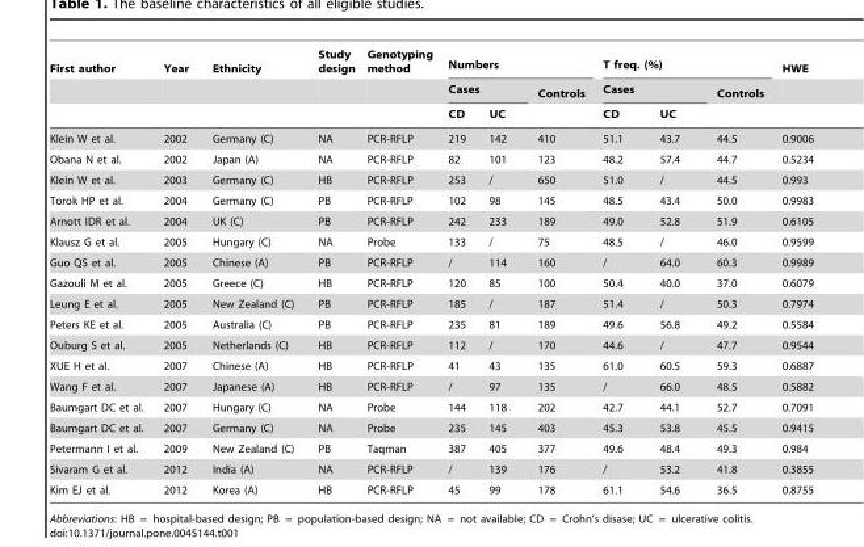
<table><thead><tr><td rowspan="3">First author</td><td rowspan="3">Year</td><td rowspan="3">Ethnicity</td><td rowspan="3">Study design</td><td rowspan="3">Genotyping method</td><td colspan="3">Numbers</td><td colspan="3">T freq. (%)</td><td rowspan="3">HWE</td></tr><tr><td colspan="2">Cases</td><td rowspan="2">Controls</td><td colspan="2">Cases</td><td rowspan="2">Controls</td></tr><tr><td>CD</td><td>UC</td><td>CD</td><td>UC</td></tr></thead><tbody><tr><td>Klein W et al.</td><td>2002</td><td>Germany (C)</td><td>NA</td><td>PCR-RFLP</td><td>219</td><td>142</td><td>410</td><td>51.1</td><td>43.7</td><td>44.5</td><td>0.9006</td></tr><tr><td>Obana N et al.</td><td>2002</td><td>Japan (A)</td><td>NA</td><td>PCR-RFLP</td><td>82</td><td>101</td><td>123</td><td>48.2</td><td>57.4</td><td>44.7</td><td>0.5234</td></tr><tr><td>Klein W et al.</td><td>2003</td><td>Germany (C)</td><td>HB</td><td>PCR-RFLP</td><td>253</td><td>/</td><td>650</td><td>51.0</td><td>/</td><td>44.5</td><td>0.993</td></tr><tr><td>Torok HP et al.</td><td>2004</td><td>Germany (C)</td><td>PB</td><td>PCR-RFLP</td><td>102</td><td>98</td><td>145</td><td>48.5</td><td>43.4</td><td>50.0</td><td>0.9983</td></tr><tr><td>Arnott IDR et al.</td><td>2004</td><td>UK (C)</td><td>PB</td><td>PCR-RFLP</td><td>242</td><td>233</td><td>189</td><td>49.0</td><td>52.8</td><td>51.9</td><td>0.6105</td></tr><tr><td>Klausz G et al.</td><td>2005</td><td>Hungary (C)</td><td>NA</td><td>Probe</td><td>133</td><td>/</td><td>75</td><td>48.5</td><td>/</td><td>46.0</td><td>0.9599</td></tr><tr><td>Guo QS et al.</td><td>2005</td><td>Chinese (A)</td><td>PB</td><td>PCR-RFLP</td><td>/</td><td>114</td><td>160</td><td>/</td><td>64.0</td><td>60.3</td><td>0.9989</td></tr><tr><td>Gazouli M et al.</td><td>2005</td><td>Greece (C)</td><td>HB</td><td>PCR-RFLP</td><td>120</td><td>85</td><td>100</td><td>50.4</td><td>40.0</td><td>37.0</td><td>0.6079</td></tr><tr><td>Leung E et al.</td><td>2005</td><td>New Zealand (C)</td><td>PB</td><td>PCR-RFLP</td><td>185</td><td>/</td><td>187</td><td>51.4</td><td>/</td><td>50.3</td><td>0.7974</td></tr><tr><td>Peters KE et al.</td><td>2005</td><td>Australia (C)</td><td>PB</td><td>PCR-RFLP</td><td>235</td><td>81</td><td>189</td><td>49.6</td><td>56.8</td><td>49.2</td><td>0.5584</td></tr><tr><td>Ouburg S et al.</td><td>2005</td><td>Netherlands (C)</td><td>HB</td><td>PCR-RFLP</td><td>112</td><td>/</td><td>170</td><td>44.6</td><td>/</td><td>47.7</td><td>0.9544</td></tr><tr><td>XUE H et al.</td><td>2007</td><td>Chinese (A)</td><td>HB</td><td>PCR-RFLP</td><td>41</td><td>43</td><td>135</td><td>61.0</td><td>60.5</td><td>59.3</td><td>0.6887</td></tr><tr><td>Wang F et al.</td><td>2007</td><td>Japanese (A)</td><td>HB</td><td>PCR-RFLP</td><td>/</td><td>97</td><td>135</td><td>/</td><td>66.0</td><td>48.5</td><td>0.5882</td></tr><tr><td>Baumgart DC et al.</td><td>2007</td><td>Hungary (C)</td><td>NA</td><td>Probe</td><td>144</td><td>118</td><td>202</td><td>42.7</td><td>44.1</td><td>52.7</td><td>0.7091</td></tr><tr><td>Baumgart DC et al.</td><td>2007</td><td>Germany (C)</td><td>NA</td><td>Probe</td><td>235</td><td>145</td><td>403</td><td>45.3</td><td>53.8</td><td>45.5</td><td>0.9415</td></tr><tr><td>Petermann I et al.</td><td>2009</td><td>New Zealand (C)</td><td>PB</td><td>Taqman</td><td>387</td><td>405</td><td>377</td><td>49.6</td><td>48.4</td><td>49.3</td><td>0.984</td></tr><tr><td>Sivaram G et al.</td><td>2012</td><td>India (A)</td><td>NA</td><td>PCR-RFLP</td><td>/</td><td>139</td><td>176</td><td>/</td><td>53.2</td><td>41.8</td><td>0.3855</td></tr><tr><td>Kim EJ et al.</td><td>2012</td><td>Korea (A)</td><td>HB</td><td>PCR-RFLP</td><td>45</td><td>99</td><td>178</td><td>61.1</td><td>54.6</td><td>36.5</td><td>0.8755</td></tr></tbody></table>